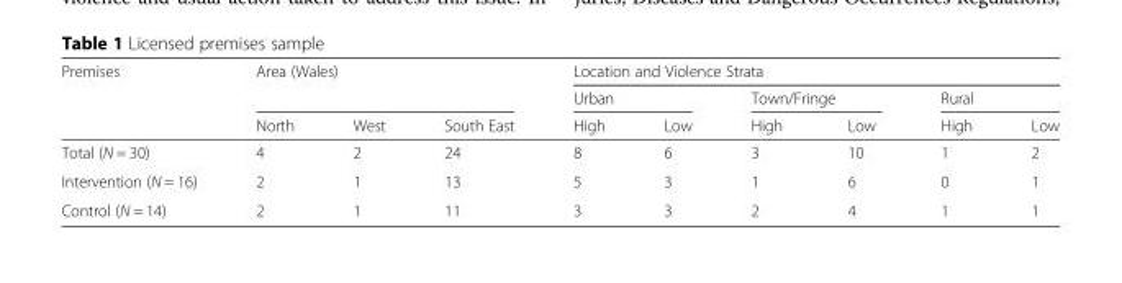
<table><thead><tr><td rowspan="3">Premises</td><td rowspan="2" colspan="3">Area (Wales)</td><td colspan="6">Location and Violence Strata</td></tr><tr><td colspan="2">Urban</td><td colspan="2">Town/Fringe</td><td colspan="2">Rural</td></tr><tr><td>North</td><td>West</td><td>South East</td><td>High</td><td>Low</td><td>High</td><td>Low</td><td>High</td><td>Low</td></tr></thead><tbody><tr><td>Total (N = 30)</td><td>4</td><td>2</td><td>24</td><td>8</td><td>6</td><td>3</td><td>10</td><td>1</td><td>2</td></tr><tr><td>Intervention (N = 16)</td><td>2</td><td>1</td><td>13</td><td>5</td><td>3</td><td>1</td><td>6</td><td>0</td><td>1</td></tr><tr><td>Control (N = 14)</td><td>2</td><td>1</td><td>11</td><td>3</td><td>3</td><td>2</td><td>4</td><td>1</td><td>1</td></tr></tbody></table>